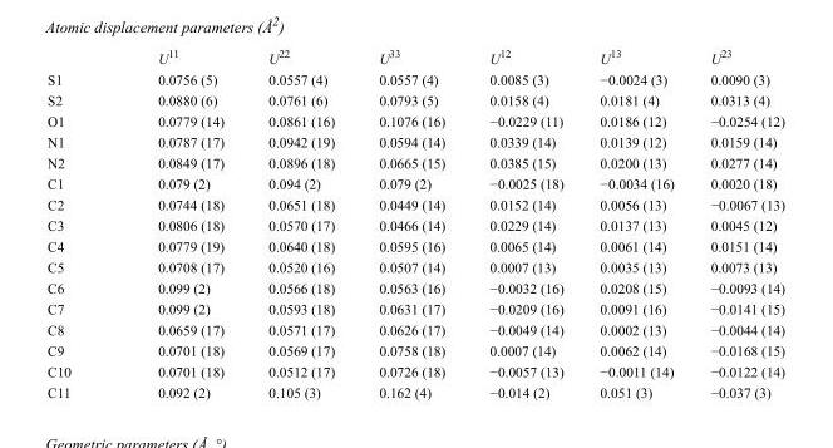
<table><thead><tr><td></td><td>U<sup>11</sup></td><td>U<sup>22</sup></td><td>U<sup>33</sup></td><td>U<sup>12</sup></td><td>U<sup>13</sup></td><td>U<sup>23</sup></td></tr></thead><tbody><tr><td>S1</td><td>0.0756 (5)</td><td>0.0557 (4)</td><td>0.0557 (4)</td><td>0.0085 (3)</td><td>−0.0024 (3)</td><td>0.0090 (3)</td></tr><tr><td>S2</td><td>0.0880 (6)</td><td>0.0761 (6)</td><td>0.0793 (5)</td><td>0.0158 (4)</td><td>0.0181 (4)</td><td>0.0313 (4)</td></tr><tr><td>O1</td><td>0.0779 (14)</td><td>0.0861 (16)</td><td>0.1076 (16)</td><td>−0.0229 (11)</td><td>0.0186 (12)</td><td>−0.0254 (12)</td></tr><tr><td>N1</td><td>0.0787 (17)</td><td>0.0942 (19)</td><td>0.0594 (14)</td><td>0.0339 (14)</td><td>0.0139 (12)</td><td>0.0159 (14)</td></tr><tr><td>N2</td><td>0.0849 (17)</td><td>0.0896 (18)</td><td>0.0665 (15)</td><td>0.0385 (15)</td><td>0.0200 (13)</td><td>0.0277 (14)</td></tr><tr><td>C1</td><td>0.079 (2)</td><td>0.094 (2)</td><td>0.079 (2)</td><td>−0.0025 (18)</td><td>−0.0034 (16)</td><td>0.0020 (18)</td></tr><tr><td>C2</td><td>0.0744 (18)</td><td>0.0651 (18)</td><td>0.0449 (14)</td><td>0.0152 (14)</td><td>0.0056 (13)</td><td>−0.0067 (13)</td></tr><tr><td>C3</td><td>0.0806 (18)</td><td>0.0570 (17)</td><td>0.0466 (14)</td><td>0.0229 (14)</td><td>0.0137 (13)</td><td>0.0045 (12)</td></tr><tr><td>C4</td><td>0.0779 (19)</td><td>0.0640 (18)</td><td>0.0595 (16)</td><td>0.0065 (14)</td><td>0.0061 (14)</td><td>0.0151 (14)</td></tr><tr><td>C5</td><td>0.0708 (17)</td><td>0.0520 (16)</td><td>0.0507 (14)</td><td>0.0007 (13)</td><td>0.0035 (13)</td><td>0.0073 (13)</td></tr><tr><td>C6</td><td>0.099 (2)</td><td>0.0566 (18)</td><td>0.0563 (16)</td><td>−0.0032 (16)</td><td>0.0208 (15)</td><td>−0.0093 (14)</td></tr><tr><td>C7</td><td>0.099 (2)</td><td>0.0593 (18)</td><td>0.0631 (17)</td><td>−0.0209 (16)</td><td>0.0091 (16)</td><td>−0.0141 (15)</td></tr><tr><td>C8</td><td>0.0659 (17)</td><td>0.0571 (17)</td><td>0.0626 (17)</td><td>−0.0049 (14)</td><td>0.0002 (13)</td><td>−0.0044 (14)</td></tr><tr><td>C9</td><td>0.0701 (18)</td><td>0.0569 (17)</td><td>0.0758 (18)</td><td>0.0007 (14)</td><td>0.0062 (14)</td><td>−0.0168 (15)</td></tr><tr><td>C10</td><td>0.0701 (18)</td><td>0.0512 (17)</td><td>0.0726 (18)</td><td>−0.0057 (13)</td><td>−0.0011 (14)</td><td>−0.0122 (14)</td></tr><tr><td>C11</td><td>0.092 (2)</td><td>0.105 (3)</td><td>0.162 (4)</td><td>−0.014 (2)</td><td>0.051 (3)</td><td>−0.037 (3)</td></tr></tbody></table>